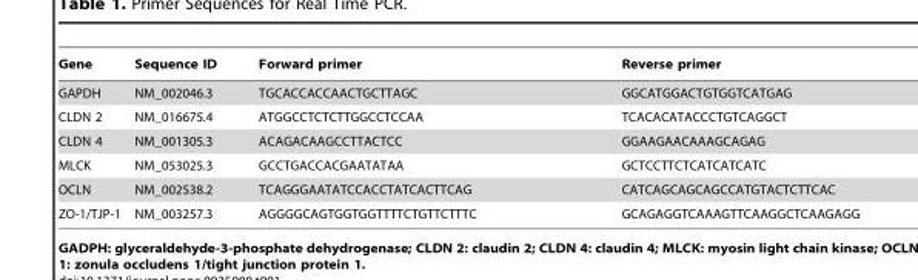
<table><thead><tr><td>Gene</td><td>Sequence ID</td><td>Forward primer</td><td>Reverse primer</td></tr></thead><tbody><tr><td>GAPDH</td><td>NM_002046.3</td><td>TGCACCACCAACTGCTTAGC</td><td>GGCATGGACTGTGGTCATGAG</td></tr><tr><td>CLDN 2</td><td>NM_016675.4</td><td>ATGGCCTCTCTTGGCCTCCAA</td><td>TCACACATACCCTGTCAGGCT</td></tr><tr><td>CLDN 4</td><td>NM_001305.3</td><td>ACAGACAAGCCTTACTCC</td><td>GGAAGAACAAAGCAGAG</td></tr><tr><td>MLCK</td><td>NM_053025.3</td><td>GCCTGACCACGAATATAA</td><td>GCTCCTTCTCATCATCATC</td></tr><tr><td>OCLN</td><td>NM_002538.2</td><td>TCAGGGAATATCCACCTATCACTTCAG</td><td>CATCAGCAGCAGCCATGTACTCTTCAC</td></tr><tr><td>ZO-1/TJP-1</td><td>NM_003257.3</td><td>AGGGGCAGTGGTGGTTTTCTGTTCTTTC</td><td>GCAGAGGTCAAAGTTCAAGGCTCAAGAGG</td></tr></tbody></table>